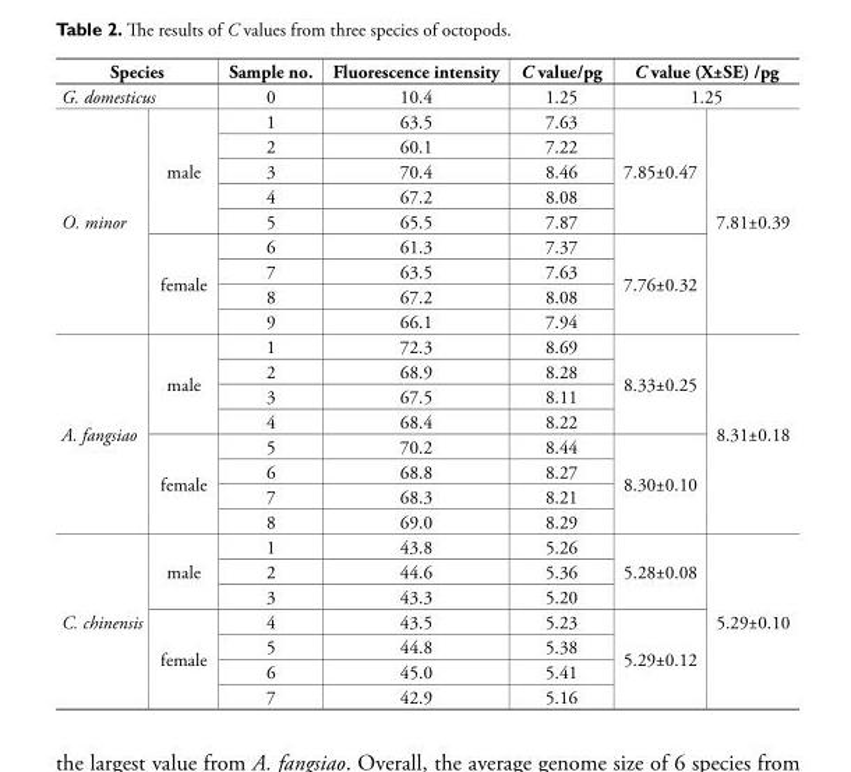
<table><tbody><tr><td colspan="2">Species</td><td>Sample no.</td><td>Fluorescence intensity</td><td>C value/pg</td><td colspan="2">C value (X±SE) /pg</td></tr><tr><td colspan="2">G. domesticus</td><td>0</td><td>10.4</td><td>1.25</td><td colspan="2">1.25</td></tr><tr><td rowspan="9">O. minor</td><td rowspan="5">male</td><td>1</td><td>63.5</td><td>7.63</td><td rowspan="5">7.85±0.47</td><td rowspan="9">7.81±0.39</td></tr><tr><td>2</td><td>60.1</td><td>7.22</td></tr><tr><td>3</td><td>70.4</td><td>8.46</td></tr><tr><td>4</td><td>67.2</td><td>8.08</td></tr><tr><td>5</td><td>65.5</td><td>7.87</td></tr><tr><td rowspan="4">female</td><td>6</td><td>61.3</td><td>7.37</td><td rowspan="4">7.76±0.32</td></tr><tr><td>7</td><td>63.5</td><td>7.63</td></tr><tr><td>8</td><td>67.2</td><td>8.08</td></tr><tr><td>9</td><td>66.1</td><td>7.94</td></tr><tr><td rowspan="8">A. fangsiao</td><td rowspan="4">male</td><td>1</td><td>72.3</td><td>8.69</td><td rowspan="4">8.33±0.25</td><td rowspan="8">8.31±0.18</td></tr><tr><td>2</td><td>68.9</td><td>8.28</td></tr><tr><td>3</td><td>67.5</td><td>8.11</td></tr><tr><td>4</td><td>68.4</td><td>8.22</td></tr><tr><td rowspan="4">female</td><td>5</td><td>70.2</td><td>8.44</td><td rowspan="4">8.30±0.10</td></tr><tr><td>6</td><td>68.8</td><td>8.27</td></tr><tr><td>7</td><td>68.3</td><td>8.21</td></tr><tr><td>8</td><td>69.0</td><td>8.29</td></tr><tr><td rowspan="7">C. chinensis</td><td rowspan="3">male</td><td>1</td><td>43.8</td><td>5.26</td><td rowspan="3">5.28±0.08</td><td rowspan="7">5.29±0.10</td></tr><tr><td>2</td><td>44.6</td><td>5.36</td></tr><tr><td>3</td><td>43.3</td><td>5.20</td></tr><tr><td rowspan="4">female</td><td>4</td><td>43.5</td><td>5.23</td><td rowspan="4">5.29±0.12</td></tr><tr><td>5</td><td>44.8</td><td>5.38</td></tr><tr><td>6</td><td>45.0</td><td>5.41</td></tr><tr><td>7</td><td>42.9</td><td>5.16</td></tr></tbody></table>